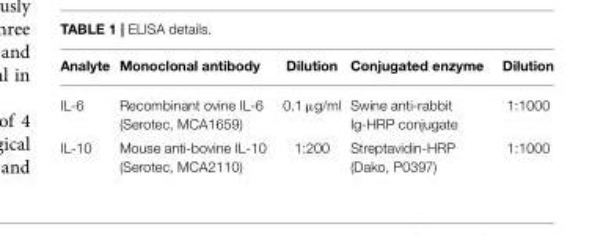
<table><thead><tr><td>Analyte</td><td>Monoclonal antibody</td><td>Dilution</td><td>Conjugated enzyme</td><td>Dilution</td></tr></thead><tbody><tr><td>IL-6</td><td>Recombinant ovine IL-6 (Serotec, MCA1659)</td><td>0.1 µg/ml</td><td>Swine anti-rabbit Ig-HRP conjugate</td><td>1:1000</td></tr><tr><td>IL-10</td><td>Mouse anti-bovine IL-10 (Serotec, MCA2110)</td><td>1:200</td><td>Streptavidin-HRP (Dako, P0397)</td><td>1:1000</td></tr></tbody></table>